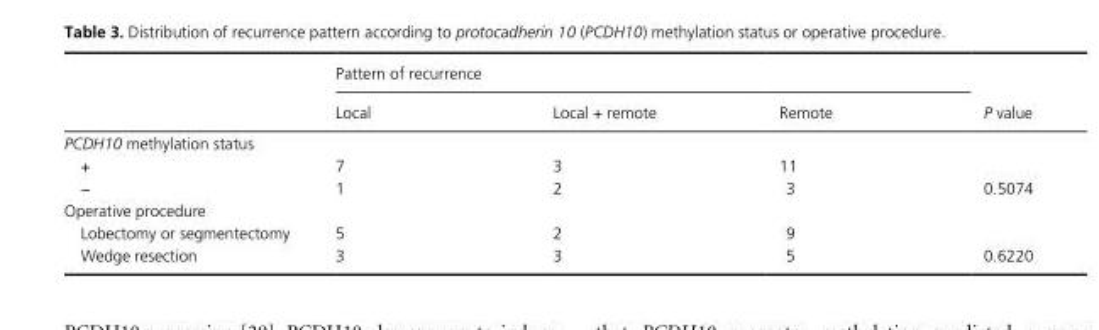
<table><thead><tr><td rowspan="2"></td><td colspan="3">Pattern of recurrence</td><td rowspan="2">P value</td></tr><tr><td>Local</td><td>Local + remote</td><td>Remote</td></tr></thead><tbody><tr><td colspan="5">PCDH10 methylation status</td></tr><tr><td>+</td><td>7</td><td>3</td><td>11</td><td></td></tr><tr><td>−</td><td>1</td><td>2</td><td>3</td><td>0.5074</td></tr><tr><td colspan="5">Operative procedure</td></tr><tr><td>Lobectomy or segmentectomy</td><td>5</td><td>2</td><td>9</td><td></td></tr><tr><td>Wedge resection</td><td>3</td><td>3</td><td>5</td><td>0.6220</td></tr></tbody></table>